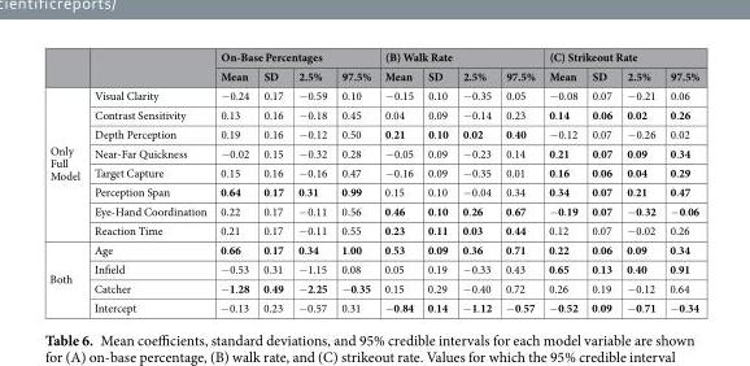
<table><thead><tr><td rowspan="2"></td><td rowspan="2"></td><td colspan="4">On-Base Percentages</td><td colspan="4">(B) Walk Rate</td><td colspan="4">(C) Strikeout Rate</td></tr><tr><td>Mean</td><td>SD</td><td>2.5%</td><td>97.5%</td><td>Mean</td><td>SD</td><td>2.5%</td><td>97.5%</td><td>Mean</td><td>SD</td><td>2.5%</td><td>97.5%</td></tr></thead><tbody><tr><td rowspan="8">Only Full Model</td><td>Visual Clarity</td><td>−0.24</td><td>0.17</td><td>−0.59</td><td>0.10</td><td>−0.15</td><td>0.10</td><td>−0.35</td><td>0.05</td><td>−0.08</td><td>0.07</td><td>−0.21</td><td>0.06</td></tr><tr><td>Contrast Sensitivity</td><td>0.13</td><td>0.16</td><td>−0.18</td><td>0.45</td><td>0.04</td><td>0.09</td><td>−0.14</td><td>0.23</td><td>0.14</td><td>0.06</td><td>0.02</td><td>0.26</td></tr><tr><td>Depth Perception</td><td>0.19</td><td>0.16</td><td>−0.12</td><td>0.50</td><td>0.21</td><td>0.10</td><td>0.02</td><td>0.40</td><td>−0.12</td><td>0.07</td><td>−0.26</td><td>0.02</td></tr><tr><td>Near-Far Quickness</td><td>−0.02</td><td>0.15</td><td>−0.32</td><td>0.28</td><td>−0.05</td><td>0.09</td><td>−0.23</td><td>0.14</td><td>0.21</td><td>0.07</td><td>0.09</td><td>0.34</td></tr><tr><td>Target Capture</td><td>0.15</td><td>0.16</td><td>−0.16</td><td>0.47</td><td>−0.16</td><td>0.09</td><td>−0.35</td><td>0.01</td><td>0.16</td><td>0.06</td><td>0.04</td><td>0.29</td></tr><tr><td>Perception Span</td><td>0.64</td><td>0.17</td><td>0.31</td><td>0.99</td><td>0.15</td><td>0.10</td><td>−0.04</td><td>0.34</td><td>0.34</td><td>0.07</td><td>0.21</td><td>0.47</td></tr><tr><td>Eye-Hand Coordination</td><td>0.22</td><td>0.17</td><td>−0.11</td><td>0.56</td><td>0.46</td><td>0.10</td><td>0.26</td><td>0.67</td><td>−0.19</td><td>0.07</td><td>−0.32</td><td>−0.06</td></tr><tr><td>Reaction Time</td><td>0.21</td><td>0.17</td><td>−0.11</td><td>0.55</td><td>0.23</td><td>0.11</td><td>0.03</td><td>0.44</td><td>0.12</td><td>0.07</td><td>−0.02</td><td>0.26</td></tr><tr><td rowspan="4">Both</td><td>Age</td><td>0.66</td><td>0.17</td><td>0.34</td><td>1.00</td><td>0.53</td><td>0.09</td><td>0.36</td><td>0.71</td><td>0.22</td><td>0.06</td><td>0.09</td><td>0.34</td></tr><tr><td>Infield</td><td>−0.53</td><td>0.31</td><td>−1.15</td><td>0.08</td><td>0.05</td><td>0.19</td><td>−0.33</td><td>0.43</td><td>0.65</td><td>0.13</td><td>0.40</td><td>0.91</td></tr><tr><td>Catcher</td><td>−1.28</td><td>0.49</td><td>−2.25</td><td>−0.35</td><td>0.15</td><td>0.29</td><td>−0.40</td><td>0.72</td><td>0.26</td><td>0.19</td><td>−0.12</td><td>0.64</td></tr><tr><td>Intercept</td><td>−0.13</td><td>0.23</td><td>−0.57</td><td>0.31</td><td>−0.84</td><td>0.14</td><td>−1.12</td><td>−0.57</td><td>−0.52</td><td>0.09</td><td>−0.71</td><td>−0.34</td></tr></tbody></table>